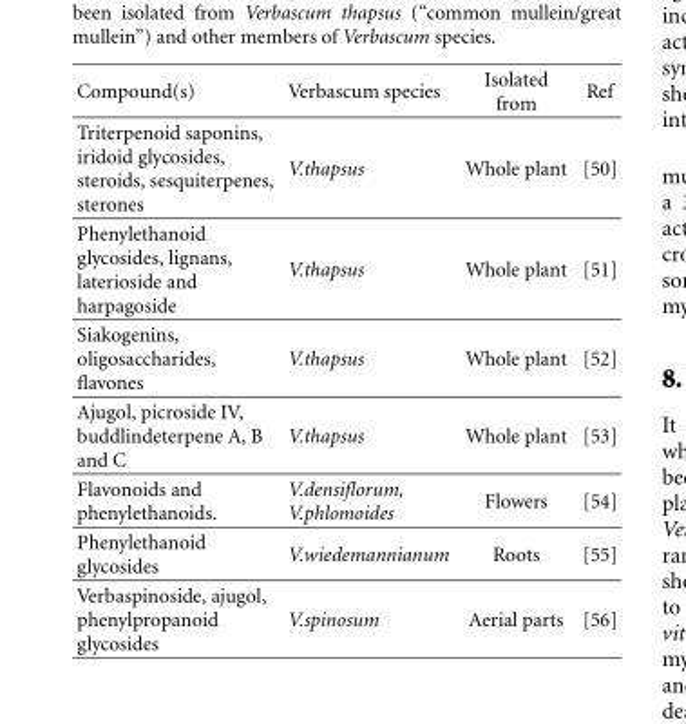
<table><thead><tr><td>Compound(s)</td><td>Verbascum species</td><td>Isolated from</td><td>Ref</td></tr></thead><tbody><tr><td>Triterpenoid saponins, iridoid glycosides, steroids, sesquiterpenes, sterones</td><td>V.thapsus</td><td>Whole plant</td><td>[50]</td></tr><tr><td>Phenylethanoid glycosides, lignans, laterioside and harpagoside</td><td>V.thapsus</td><td>Whole plant</td><td>[51]</td></tr><tr><td>Siakogenins, oligosaccharides, flavones</td><td>V.thapsus</td><td>Whole plant</td><td>[52]</td></tr><tr><td>Ajugol, picroside IV, buddlindeterpene A, B and C</td><td>V.thapsus</td><td>Whole plant</td><td>[53]</td></tr><tr><td>Flavonoids and phenylethanoids.</td><td>V.densiflorum, V.phlomoides</td><td>Flowers</td><td>[54]</td></tr><tr><td>Phenylethanoid glycosides</td><td>V.wiedemannianum</td><td>Roots</td><td>[55]</td></tr><tr><td>Verbaspinoside, ajugol, phenylpropanoid glycosides</td><td>V.spinosum</td><td>Aerial parts</td><td>[56]</td></tr></tbody></table>